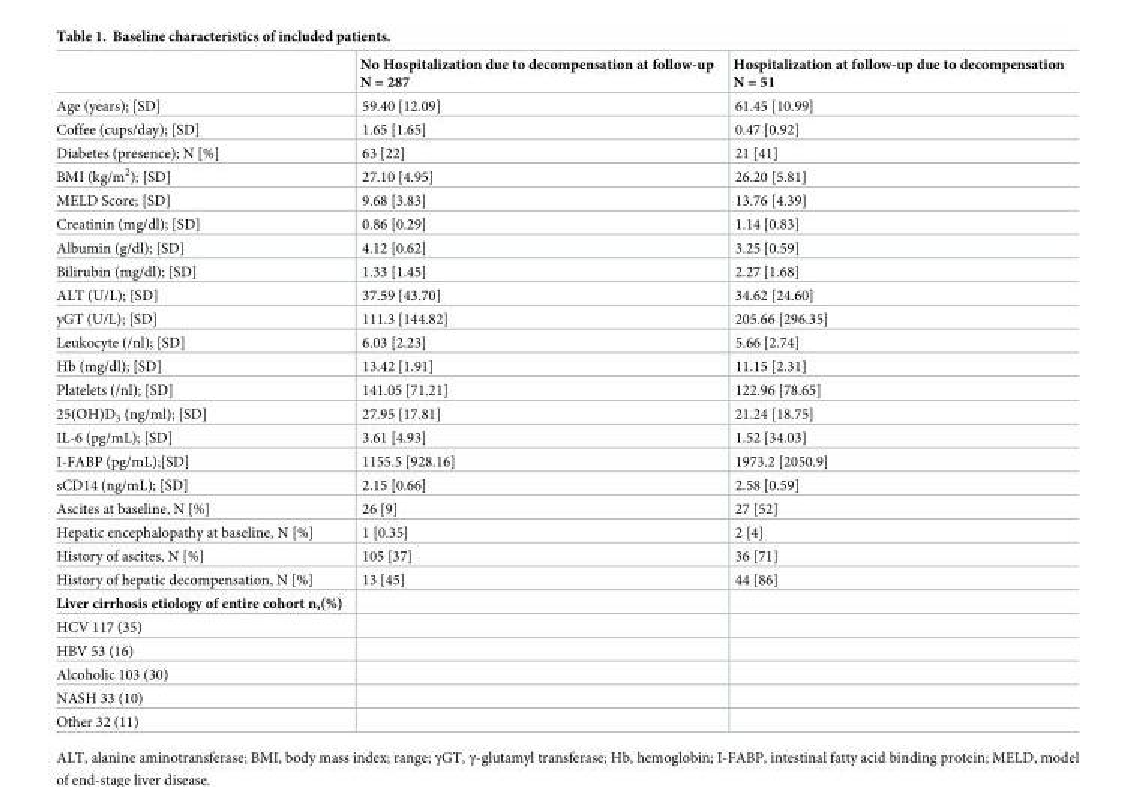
<table><thead><tr><td></td><td>No Hospitalization due to decompensation at follow-up N = 287</td><td>Hospitalization at follow-up due to decompensation N = 51</td></tr></thead><tbody><tr><td>Age (years); [SD]</td><td>59.40 [12.09]</td><td>61.45 [10.99]</td></tr><tr><td>Coffee (cups/day); [SD]</td><td>1.65 [1.65]</td><td>0.47 [0.92]</td></tr><tr><td>Diabetes (presence); N [%]</td><td>63 [22]</td><td>21 [41]</td></tr><tr><td>BMI (kg/m<sup>2</sup>); [SD]</td><td>27.10 [4.95]</td><td>26.20 [5.81]</td></tr><tr><td>MELD Score; [SD]</td><td>9.68 [3.83]</td><td>13.76 [4.39]</td></tr><tr><td>Creatinin (mg/dl); [SD]</td><td>0.86 [0.29]</td><td>1.14 [0.83]</td></tr><tr><td>Albumin (g/dl); [SD]</td><td>4.12 [0.62]</td><td>3.25 [0.59]</td></tr><tr><td>Bilirubin (mg/dl); [SD]</td><td>1.33 [1.45]</td><td>2.27 [1.68]</td></tr><tr><td>ALT (U/L); [SD]</td><td>37.59 [43.70]</td><td>34.62 [24.60]</td></tr><tr><td>yGT (U/L); [SD]</td><td>111.3 [144.82]</td><td>205.66 [296.35]</td></tr><tr><td>Leukocyte (/nl); [SD]</td><td>6.03 [2.23]</td><td>5.66 [2.74]</td></tr><tr><td>Hb (mg/dl); [SD]</td><td>13.42 [1.91]</td><td>11.15 [2.31]</td></tr><tr><td>Platelets (/nl); [SD]</td><td>141.05 [71.21]</td><td>122.96 [78.65]</td></tr><tr><td>25(OH)D<sub>3</sub> (ng/ml); [SD]</td><td>27.95 [17.81]</td><td>21.24 [18.75]</td></tr><tr><td>IL-6 (pg/mL); [SD]</td><td>3.61 [4.93]</td><td>1.52 [34.03]</td></tr><tr><td>I-FABP (pg/mL);[SD]</td><td>1155.5 [928.16]</td><td>1973.2 [2050.9]</td></tr><tr><td>sCD14 (ng/mL); [SD]</td><td>2.15 [0.66]</td><td>2.58 [0.59]</td></tr><tr><td>Ascites at baseline, N [%]</td><td>26 [9]</td><td>27 [52]</td></tr><tr><td>Hepatic encephalopathy at baseline, N [%]</td><td>1 [0.35]</td><td>2 [4]</td></tr><tr><td>History of ascites, N [%]</td><td>105 [37]</td><td>36 [71]</td></tr><tr><td>History of hepatic decompensation, N [%]</td><td>13 [45]</td><td>44 [86]</td></tr><tr><td colspan="3">Liver cirrhosis etiology of entire cohort n,(%)</td></tr><tr><td colspan="3">HCV 117 (35)</td></tr><tr><td colspan="3">HBV 53 (16)</td></tr><tr><td colspan="3">Alcoholic 103 (30)</td></tr><tr><td colspan="3">NASH 33 (10)</td></tr><tr><td>Other 32 (11)</td><td></td><td></td></tr></tbody></table>